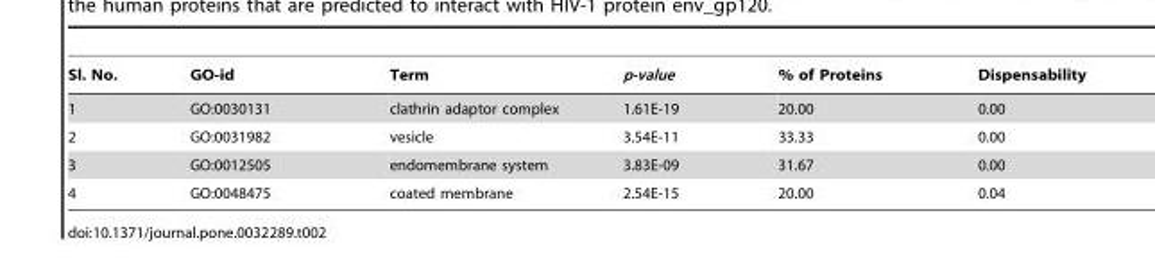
<table><thead><tr><td>Sl. No.</td><td>GO-id</td><td>Term</td><td>p-value</td><td>% of Proteins</td><td>Dispensability</td></tr></thead><tbody><tr><td>1</td><td>GO:0030131</td><td>clathrin adaptor complex</td><td>1.61E-19</td><td>20.00</td><td>0.00</td></tr><tr><td>2</td><td>GO:0031982</td><td>vesicle</td><td>3.54E-11</td><td>33.33</td><td>0.00</td></tr><tr><td>3</td><td>GO:0012505</td><td>endomembrane system</td><td>3.83E-09</td><td>31.67</td><td>0.00</td></tr><tr><td>4</td><td>GO:0048475</td><td>coated membrane</td><td>2.54E-15</td><td>20.00</td><td>0.04</td></tr></tbody></table>